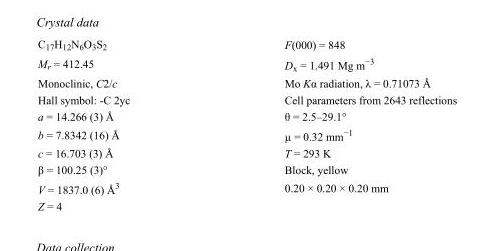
<table><tbody><tr><td>C<sub>17</sub>H<sub>12</sub>N<sub>6</sub>O<sub>3</sub>S<sub>2</sub></td><td>F(000) = 848</td></tr><tr><td>M<sub>r</sub> = 412.45</td><td>D<sub>x</sub> = 1.491 Mg m<sup>−3</sup></td></tr><tr><td>Monoclinic, C2/c</td><td>Mo Kα radiation, λ = 0.71073 Å</td></tr><tr><td>Hall symbol: -C 2yc</td><td>Cell parameters from 2643 reflections</td></tr><tr><td>a = 14.266 (3) Å</td><td>θ = 2.5–29.1°</td></tr><tr><td>b = 7.8342 (16) Å</td><td>µ = 0.32 mm<sup>−1</sup></td></tr><tr><td>c = 16.703 (3) Å</td><td>T = 293 K</td></tr><tr><td>β = 100.25 (3)°</td><td>Block, yellow</td></tr><tr><td>V = 1837.0 (6) Å<sup>3</sup></td><td>0.20 × 0.20 × 0.20 mm</td></tr><tr><td>Z = 4</td><td></td></tr></tbody></table>